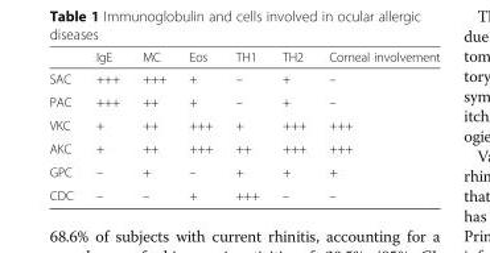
<table><thead><tr><td></td><td>IgE</td><td>MC</td><td>Eos</td><td>TH1</td><td>TH2</td><td>Corneal involvement</td></tr></thead><tbody><tr><td>SAC</td><td>+++</td><td>+++</td><td>+</td><td>–</td><td>+</td><td>–</td></tr><tr><td>PAC</td><td>+++</td><td>++</td><td>+</td><td>–</td><td>+</td><td>–</td></tr><tr><td>VKC</td><td>+</td><td>++</td><td>+++</td><td>+</td><td>+++</td><td>+++</td></tr><tr><td>AKC</td><td>+</td><td>++</td><td>+++</td><td>++</td><td>+++</td><td>+++</td></tr><tr><td>GPC</td><td>–</td><td>+</td><td>–</td><td>+</td><td>+</td><td>+</td></tr><tr><td>CDC</td><td>–</td><td>–</td><td>+</td><td>+++</td><td>–</td><td>–</td></tr></tbody></table>